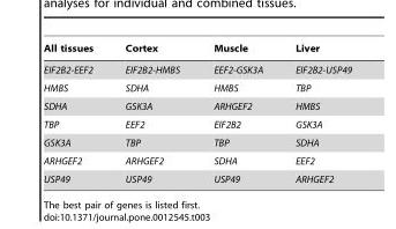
<table><thead><tr><td>All tissues</td><td>Cortex</td><td>Muscle</td><td>Liver</td></tr></thead><tbody><tr><td>EIF2B2-EEF2</td><td>EIF2B2-HMBS</td><td>EEF2-GSK3A</td><td>EIF2B2-USP49</td></tr><tr><td>HMBS</td><td>SDHA</td><td>HMBS</td><td>TBP</td></tr><tr><td>SDHA</td><td>GSK3A</td><td>ARHGEF2</td><td>HMBS</td></tr><tr><td>TBP</td><td>EEF2</td><td>EIF2B2</td><td>GSK3A</td></tr><tr><td>GSK3A</td><td>TBP</td><td>TBP</td><td>SDHA</td></tr><tr><td>ARHGEF2</td><td>ARHGEF2</td><td>SDHA</td><td>EEF2</td></tr><tr><td>USP49</td><td>USP49</td><td>USP49</td><td>ARHGEF2</td></tr></tbody></table>